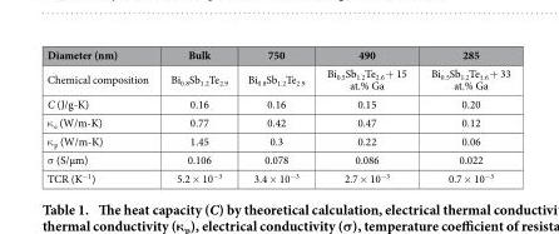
<table><thead><tr><td>Diameter (nm)</td><td>Bulk</td><td>750</td><td>490</td><td>285</td></tr></thead><tbody><tr><td>Chemical composition</td><td>Bi<sub>0.8</sub>Sb<sub>1.2</sub>Te<sub>2.9</sub></td><td>Bi<sub>0.8</sub>Sb<sub>1.2</sub>Te<sub>2.9</sub></td><td>Bi<sub>0.5</sub>Sb<sub>1.2</sub>Te<sub>2.6</sub> + 15 at.% Ga</td><td>Bi<sub>0.5</sub>Sb<sub>1.2</sub>Te<sub>1.6</sub> + 33 at.% Ga</td></tr><tr><td>C (J/g-K)</td><td>0.16</td><td>0.16</td><td>0.15</td><td>0.20</td></tr><tr><td>κ <sub>e</sub> (W/m-K)</td><td>0.77</td><td>0.42</td><td>0.47</td><td>0.12</td></tr><tr><td>κ <sub>p</sub> (W/m-K)</td><td>1.45</td><td>0.3</td><td>0.22</td><td>0.06</td></tr><tr><td>σ (S/μm)</td><td>0.106</td><td>0.078</td><td>0.086</td><td>0.022</td></tr><tr><td>TCR (K<sup>−1</sup>)</td><td>5.2 × 10<sup>−3</sup></td><td>3.4 × 10<sup>−3</sup></td><td>2.7 × 10<sup>−3</sup></td><td>0.7 × 10<sup>−3</sup></td></tr></tbody></table>